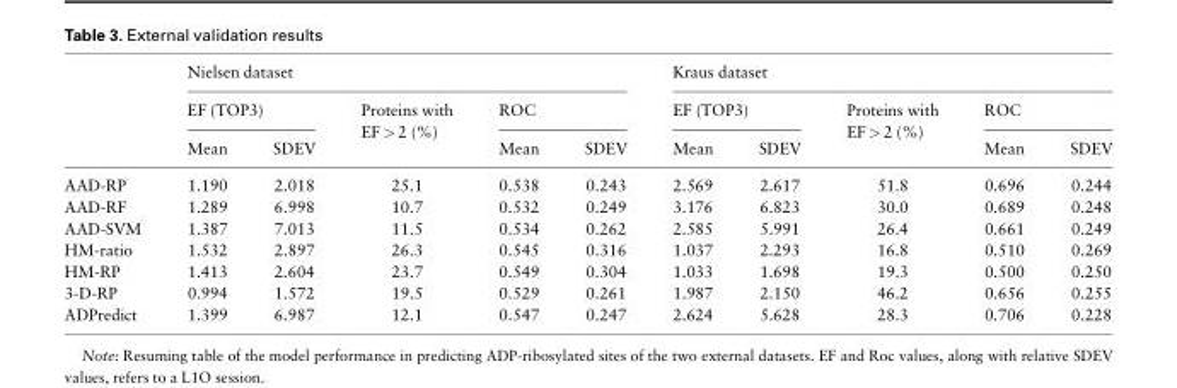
<table><thead><tr><td rowspan="3"></td><td colspan="5">Nielsen dataset</td><td colspan="5">Kraus dataset</td></tr><tr><td colspan="2">EF (TOP3)</td><td rowspan="2">Proteins with EF &gt; 2 (%)</td><td colspan="2">ROC</td><td colspan="2">EF (TOP3)</td><td rowspan="2">Proteins with EF &gt; 2 (%)</td><td colspan="2">ROC</td></tr><tr><td>Mean</td><td>SDEV</td><td>Mean</td><td>SDEV</td><td>Mean</td><td>SDEV</td><td>Mean</td><td>SDEV</td></tr></thead><tbody><tr><td>AAD-RP</td><td>1.190</td><td>2.018</td><td>25.1</td><td>0.538</td><td>0.243</td><td>2.569</td><td>2.617</td><td>51.8</td><td>0.696</td><td>0.244</td></tr><tr><td>AAD-RF</td><td>1.289</td><td>6.998</td><td>10.7</td><td>0.532</td><td>0.249</td><td>3.176</td><td>6.823</td><td>30.0</td><td>0.689</td><td>0.248</td></tr><tr><td>AAD-SVM</td><td>1.387</td><td>7.013</td><td>11.5</td><td>0.534</td><td>0.262</td><td>2.585</td><td>5.991</td><td>26.4</td><td>0.661</td><td>0.249</td></tr><tr><td>HM-ratio</td><td>1.532</td><td>2.897</td><td>26.3</td><td>0.545</td><td>0.316</td><td>1.037</td><td>2.293</td><td>16.8</td><td>0.510</td><td>0.269</td></tr><tr><td>HM-RP</td><td>1.413</td><td>2.604</td><td>23.7</td><td>0.549</td><td>0.304</td><td>1.033</td><td>1.698</td><td>19.3</td><td>0.500</td><td>0.250</td></tr><tr><td>3-D-RP</td><td>0.994</td><td>1.572</td><td>19.5</td><td>0.529</td><td>0.261</td><td>1.987</td><td>2.150</td><td>46.2</td><td>0.656</td><td>0.255</td></tr><tr><td>ADPredict</td><td>1.399</td><td>6.987</td><td>12.1</td><td>0.547</td><td>0.247</td><td>2.624</td><td>5.628</td><td>28.3</td><td>0.706</td><td>0.228</td></tr></tbody></table>